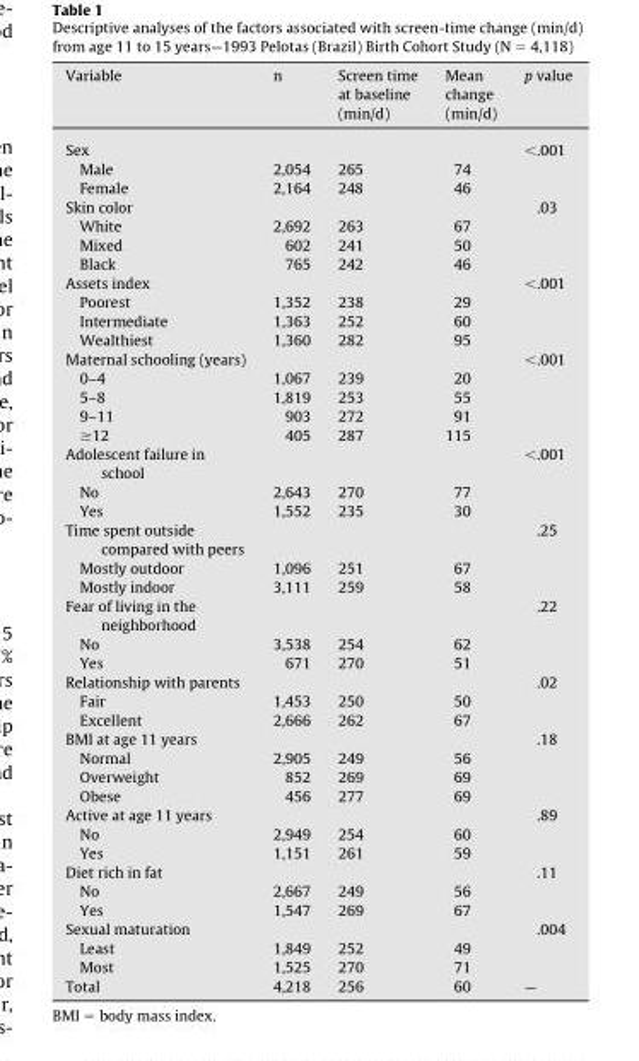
<table><thead><tr><td>Variable</td><td>n</td><td>Screen time at baseline (min/d)</td><td>Mean change (min/d)</td><td>p value</td></tr></thead><tbody><tr><td>Sex</td><td></td><td></td><td></td><td>&lt;.001</td></tr><tr><td>Male</td><td>2,054</td><td>265</td><td>74</td><td></td></tr><tr><td>Female</td><td>2,164</td><td>248</td><td>46</td><td></td></tr><tr><td>Skin color</td><td></td><td></td><td></td><td>.03</td></tr><tr><td>White</td><td>2,692</td><td>263</td><td>67</td><td></td></tr><tr><td>Mixed</td><td>602</td><td>241</td><td>50</td><td></td></tr><tr><td>Black</td><td>765</td><td>242</td><td>46</td><td></td></tr><tr><td>Assets index</td><td></td><td></td><td></td><td>&lt;.001</td></tr><tr><td>Poorest</td><td>1,352</td><td>238</td><td>29</td><td></td></tr><tr><td>Intermediate</td><td>1,363</td><td>252</td><td>60</td><td></td></tr><tr><td>Wealthiest</td><td>1,360</td><td>282</td><td>95</td><td></td></tr><tr><td>Maternal schooling (years)</td><td></td><td></td><td></td><td>&lt;.001</td></tr><tr><td>0–4</td><td>1,067</td><td>239</td><td>20</td><td></td></tr><tr><td>5–8</td><td>1,819</td><td>253</td><td>55</td><td></td></tr><tr><td>9–11</td><td>903</td><td>272</td><td>91</td><td></td></tr><tr><td>≥12</td><td>405</td><td>287</td><td>115</td><td></td></tr><tr><td>Adolescent failure in school</td><td></td><td></td><td></td><td>&lt;.001</td></tr><tr><td>No</td><td>2,643</td><td>270</td><td>77</td><td></td></tr><tr><td>Yes</td><td>1,552</td><td>235</td><td>30</td><td></td></tr><tr><td>Time spent outside compared with peers</td><td></td><td></td><td></td><td>.25</td></tr><tr><td>Mostly outdoor</td><td>1,096</td><td>251</td><td>67</td><td></td></tr><tr><td>Mostly indoor</td><td>3,111</td><td>259</td><td>58</td><td></td></tr><tr><td>Fear of living in the neighborhood</td><td></td><td></td><td></td><td>.22</td></tr><tr><td>No</td><td>3,538</td><td>254</td><td>62</td><td></td></tr><tr><td>Yes</td><td>671</td><td>270</td><td>51</td><td></td></tr><tr><td>Relationship with parents</td><td></td><td></td><td></td><td>.02</td></tr><tr><td>Fair</td><td>1,453</td><td>250</td><td>50</td><td></td></tr><tr><td>Excellent</td><td>2,666</td><td>262</td><td>67</td><td></td></tr><tr><td>BMI at age 11 years</td><td></td><td></td><td></td><td>.18</td></tr><tr><td>Normal</td><td>2,905</td><td>249</td><td>56</td><td></td></tr><tr><td>Overweight</td><td>852</td><td>269</td><td>69</td><td></td></tr><tr><td>Obese</td><td>456</td><td>277</td><td>69</td><td></td></tr><tr><td>Active at age 11 years</td><td></td><td></td><td></td><td>.89</td></tr><tr><td>No</td><td>2,949</td><td>254</td><td>60</td><td></td></tr><tr><td>Yes</td><td>1,151</td><td>261</td><td>59</td><td></td></tr><tr><td>Diet rich in fat</td><td></td><td></td><td></td><td>.11</td></tr><tr><td>No</td><td>2,667</td><td>249</td><td>56</td><td></td></tr><tr><td>Yes</td><td>1,547</td><td>269</td><td>67</td><td></td></tr><tr><td>Sexual maturation</td><td></td><td></td><td></td><td>.004</td></tr><tr><td>Least</td><td>1,849</td><td>252</td><td>49</td><td></td></tr><tr><td>Most</td><td>1,525</td><td>270</td><td>71</td><td></td></tr><tr><td>Total</td><td>4,218</td><td>256</td><td>60</td><td>—</td></tr></tbody></table>